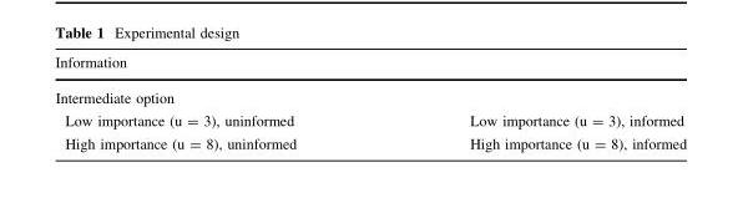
<table><thead><tr><td rowspan="2" colspan="2">Information Intermediate option</td></tr><tr></tr><tr><td>Low importance (u = 3), uninformed</td><td>Low importance (u = 3), informed</td></tr></thead><tbody><tr><td>High importance (u = 8), uninformed</td><td>High importance (u = 8), informed</td></tr></tbody></table>